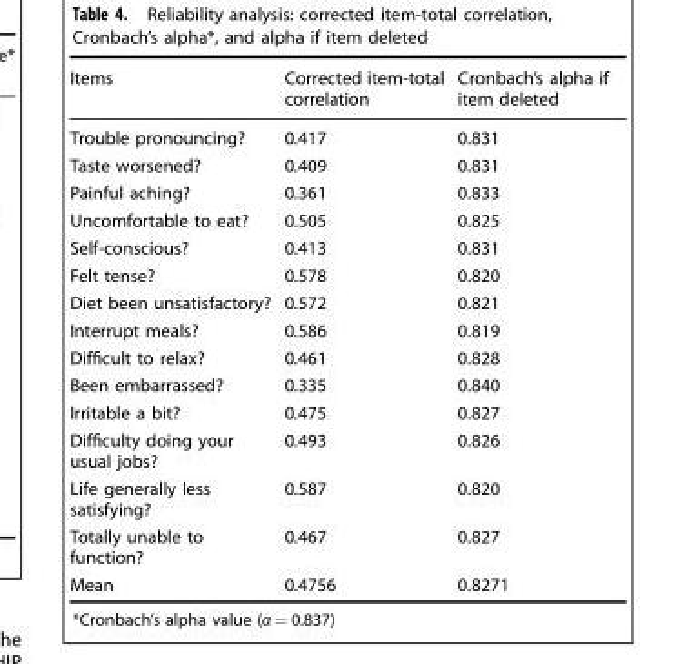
<table><thead><tr><td>Items</td><td>Corrected item-total correlation</td><td>Cronbach’s alpha if item deleted</td></tr></thead><tbody><tr><td>Trouble pronouncing?</td><td>0.417</td><td>0.831</td></tr><tr><td>Taste worsened?</td><td>0.409</td><td>0.831</td></tr><tr><td>Painful aching?</td><td>0.361</td><td>0.833</td></tr><tr><td>Uncomfortable to eat?</td><td>0.505</td><td>0.825</td></tr><tr><td>Self-conscious?</td><td>0.413</td><td>0.831</td></tr><tr><td>Felt tense?</td><td>0.578</td><td>0.820</td></tr><tr><td>Diet been unsatisfactory?</td><td>0.572</td><td>0.821</td></tr><tr><td>Interrupt meals?</td><td>0.586</td><td>0.819</td></tr><tr><td>Difficult to relax?</td><td>0.461</td><td>0.828</td></tr><tr><td>Been embarrassed?</td><td>0.335</td><td>0.840</td></tr><tr><td>Irritable a bit?</td><td>0.475</td><td>0.827</td></tr><tr><td>Difficulty doing your usual jobs?</td><td>0.493</td><td>0.826</td></tr><tr><td>Life generally less satisfying?</td><td>0.587</td><td>0.820</td></tr><tr><td>Totally unable to function?</td><td>0.467</td><td>0.827</td></tr><tr><td>Mean</td><td>0.4756</td><td>0.8271</td></tr></tbody></table>